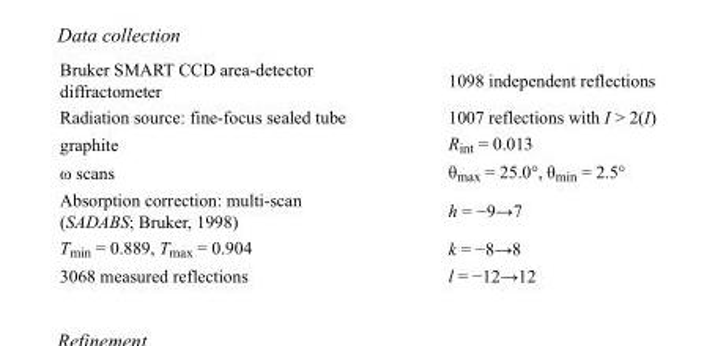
<table><tbody><tr><td>Bruker SMART CCD area-detector diffractometer</td><td>1098 independent reflections</td></tr><tr><td>Radiation source: fine-focus sealed tube</td><td>1007 reflections with I &gt; 2(I)</td></tr><tr><td>graphite</td><td>R<sub>int</sub> = 0.013</td></tr><tr><td>ω scans</td><td>θ<sub>max</sub> = 25.0°, θ<sub>min</sub> = 2.5°</td></tr><tr><td>Absorption correction: multi-scan (SADABS; Bruker, 1998)</td><td>h = −9→7</td></tr><tr><td>T<sub>min</sub> = 0.889, T<sub>max</sub> = 0.904</td><td>k = −8→8</td></tr><tr><td>3068 measured reflections</td><td>l = −12→12</td></tr></tbody></table>